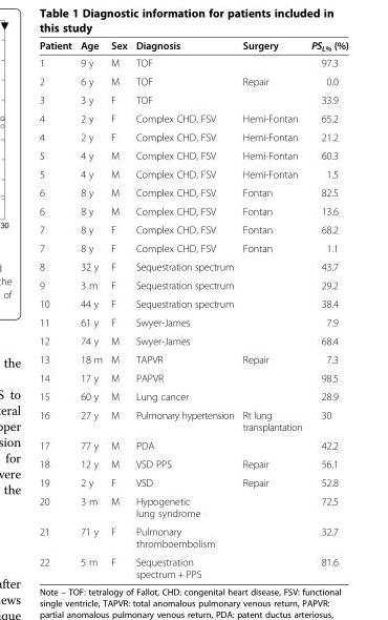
<table><thead><tr><td>Patient</td><td>Age</td><td>Sex</td><td>Diagnosis</td><td>Surgery</td><td>PS<sub>L%</sub> (%)</td></tr></thead><tbody><tr><td>1</td><td>9 y</td><td>M</td><td>TOF</td><td></td><td>97.3</td></tr><tr><td>2</td><td>6 y</td><td>M</td><td>TOF</td><td>Repair</td><td>0.0</td></tr><tr><td>3</td><td>3 y</td><td>F</td><td>TOF</td><td></td><td>33.9</td></tr><tr><td>4</td><td>2 y</td><td>F</td><td>Complex CHD, FSV</td><td>Hemi-Fontan</td><td>65.2</td></tr><tr><td>4</td><td>2 y</td><td>F</td><td>Complex CHD, FSV</td><td>Hemi-Fontan</td><td>21.2</td></tr><tr><td>5</td><td>4 y</td><td>M</td><td>Complex CHD, FSV</td><td>Hemi-Fontan</td><td>60.3</td></tr><tr><td>5</td><td>4 y</td><td>M</td><td>Complex CHD, FSV</td><td>Hemi-Fontan</td><td>1.5</td></tr><tr><td>6</td><td>8 y</td><td>M</td><td>Complex CHD, FSV</td><td>Fontan</td><td>82.5</td></tr><tr><td>6</td><td>8 y</td><td>M</td><td>Complex CHD, FSV</td><td>Fontan</td><td>13.6</td></tr><tr><td>7</td><td>8 y</td><td>F</td><td>Complex CHD, FSV</td><td>Fontan</td><td>68.2</td></tr><tr><td>7</td><td>8 y</td><td>F</td><td>Complex CHD, FSV</td><td>Fontan</td><td>1.1</td></tr><tr><td>8</td><td>32 y</td><td>F</td><td>Sequestration spectrum</td><td></td><td>43.7</td></tr><tr><td>9</td><td>3 m</td><td>F</td><td>Sequestration spectrum</td><td></td><td>29.2</td></tr><tr><td>10</td><td>44 y</td><td>F</td><td>Sequestration spectrum</td><td></td><td>38.4</td></tr><tr><td>11</td><td>61 y</td><td>F</td><td>Swyer-James</td><td></td><td>7.9</td></tr><tr><td>12</td><td>74 y</td><td>M</td><td>Swyer-James</td><td></td><td>68.4</td></tr><tr><td>13</td><td>18 m</td><td>M</td><td>TAPVR</td><td>Repair</td><td>7.3</td></tr><tr><td>14</td><td>17 y</td><td>M</td><td>PAPVR</td><td></td><td>98.5</td></tr><tr><td>15</td><td>60 y</td><td>M</td><td>Lung cancer</td><td></td><td>28.9</td></tr><tr><td>16</td><td>27 y</td><td>M</td><td>Pulmonary hypertension</td><td>Rt lung transplantation</td><td>30</td></tr><tr><td>17</td><td>77 y</td><td>M</td><td>PDA</td><td></td><td>42.2</td></tr><tr><td>18</td><td>12 y</td><td>M</td><td>VSD PPS</td><td>Repair</td><td>56.1</td></tr><tr><td>19</td><td>2 y</td><td>F</td><td>VSD</td><td>Repair</td><td>52.8</td></tr><tr><td>20</td><td>3 m</td><td>M</td><td>Hypogenetic lung syndrome</td><td></td><td>72.5</td></tr><tr><td>21</td><td>71 y</td><td>F</td><td>Pulmonary thromboembolism</td><td></td><td>32.7</td></tr><tr><td>22</td><td>5 m</td><td>F</td><td>Sequestration spectrum + PPS</td><td></td><td>81.6</td></tr></tbody></table>